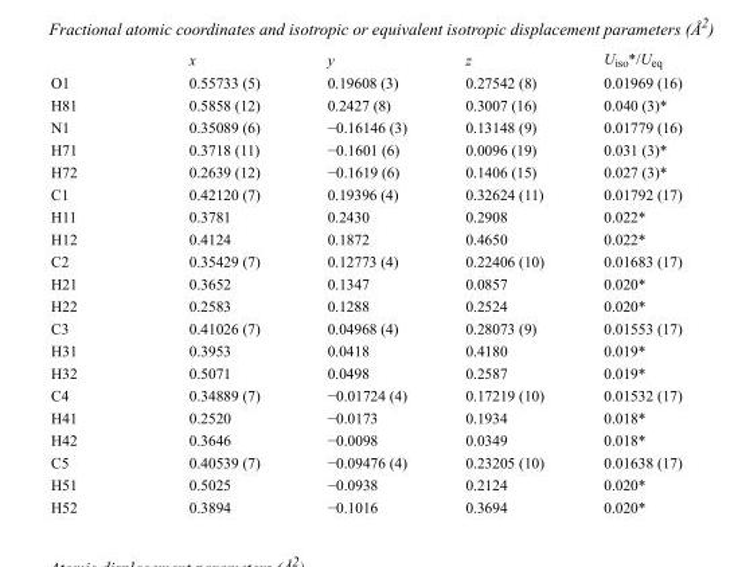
<table><thead><tr><td></td><td>x</td><td>y</td><td>z</td><td>U<sub>iso</sub>*/U<sub>eq</sub></td></tr></thead><tbody><tr><td>O1</td><td>0.55733 (5)</td><td>0.19608 (3)</td><td>0.27542 (8)</td><td>0.01969 (16)</td></tr><tr><td>H81</td><td>0.5858 (12)</td><td>0.2427 (8)</td><td>0.3007 (16)</td><td>0.040 (3)*</td></tr><tr><td>N1</td><td>0.35089 (6)</td><td>−0.16146 (3)</td><td>0.13148 (9)</td><td>0.01779 (16)</td></tr><tr><td>H71</td><td>0.3718 (11)</td><td>−0.1601 (6)</td><td>0.0096 (19)</td><td>0.031 (3)*</td></tr><tr><td>H72</td><td>0.2639 (12)</td><td>−0.1619 (6)</td><td>0.1406 (15)</td><td>0.027 (3)*</td></tr><tr><td>C1</td><td>0.42120 (7)</td><td>0.19396 (4)</td><td>0.32624 (11)</td><td>0.01792 (17)</td></tr><tr><td>H11</td><td>0.3781</td><td>0.2430</td><td>0.2908</td><td>0.022*</td></tr><tr><td>H12</td><td>0.4124</td><td>0.1872</td><td>0.4650</td><td>0.022*</td></tr><tr><td>C2</td><td>0.35429 (7)</td><td>0.12773 (4)</td><td>0.22406 (10)</td><td>0.01683 (17)</td></tr><tr><td>H21</td><td>0.3652</td><td>0.1347</td><td>0.0857</td><td>0.020*</td></tr><tr><td>H22</td><td>0.2583</td><td>0.1288</td><td>0.2524</td><td>0.020*</td></tr><tr><td>C3</td><td>0.41026 (7)</td><td>0.04968 (4)</td><td>0.28073 (9)</td><td>0.01553 (17)</td></tr><tr><td>H31</td><td>0.3953</td><td>0.0418</td><td>0.4180</td><td>0.019*</td></tr><tr><td>H32</td><td>0.5071</td><td>0.0498</td><td>0.2587</td><td>0.019*</td></tr><tr><td>C4</td><td>0.34889 (7)</td><td>−0.01724 (4)</td><td>0.17219 (10)</td><td>0.01532 (17)</td></tr><tr><td>H41</td><td>0.2520</td><td>−0.0173</td><td>0.1934</td><td>0.018*</td></tr><tr><td>H42</td><td>0.3646</td><td>−0.0098</td><td>0.0349</td><td>0.018*</td></tr><tr><td>C5</td><td>0.40539 (7)</td><td>−0.09476 (4)</td><td>0.23205 (10)</td><td>0.01638 (17)</td></tr><tr><td>H51</td><td>0.5025</td><td>−0.0938</td><td>0.2124</td><td>0.020*</td></tr><tr><td>H52</td><td>0.3894</td><td>−0.1016</td><td>0.3694</td><td>0.020*</td></tr></tbody></table>